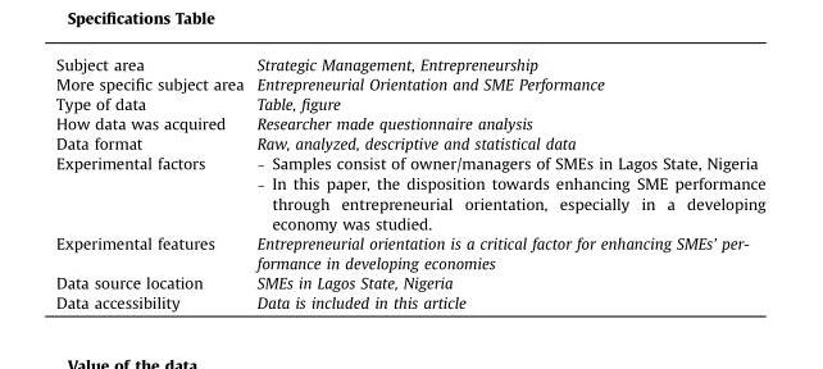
<table><thead><tr><td>Subject area</td><td>Strategic Management, Entrepreneurship</td></tr></thead><tbody><tr><td>More specific subject area</td><td>Entrepreneurial Orientation and SME Performance</td></tr><tr><td>Type of data</td><td>Table, figure</td></tr><tr><td>How data was acquired</td><td>Researcher made questionnaire analysis</td></tr><tr><td>Data format</td><td>Raw, analyzed, descriptive and statistical data</td></tr><tr><td>Experimental factors</td><td>– Samples consist of owner/managers of SMEs in Lagos State, Nigeria – In this paper, the disposition towards enhancing SME performance through entrepreneurial orientation, especially in a developing economy was studied.</td></tr><tr><td>Experimental features</td><td>Entrepreneurial orientation is a critical factor for enhancing SMEs’ per- formance in developing economies</td></tr><tr><td>Data source location</td><td>SMEs in Lagos State, Nigeria</td></tr><tr><td>Data accessibility</td><td>Data is included in this article</td></tr></tbody></table>